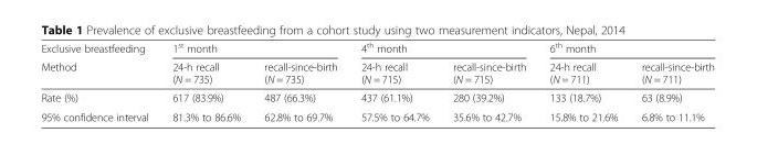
<table><thead><tr><td rowspan="2">Exclusive breastfeeding Method</td><td colspan="2">1<sup>st</sup> month</td><td colspan="2">4<sup>th</sup> month</td><td colspan="2">6<sup>th</sup> month</td></tr><tr><td>24-h recall (N = 735)</td><td>recall-since-birth (N = 735)</td><td>24-h recall (N = 715)</td><td>recall-since-birth (N = 715)</td><td>24-h recall (N = 711)</td><td>recall-since-birth (N = 711)</td></tr></thead><tbody><tr><td>Rate (%)</td><td>617 (83.9%)</td><td>487 (66.3%)</td><td>437 (61.1%)</td><td>280 (39.2%)</td><td>133 (18.7%)</td><td>63 (8.9%)</td></tr><tr><td>95% confidence interval</td><td>81.3% to 86.6%</td><td>62.8% to 69.7%</td><td>57.5% to 64.7%</td><td>35.6% to 42.7%</td><td>15.8% to 21.6%</td><td>6.8% to 11.1%</td></tr></tbody></table>